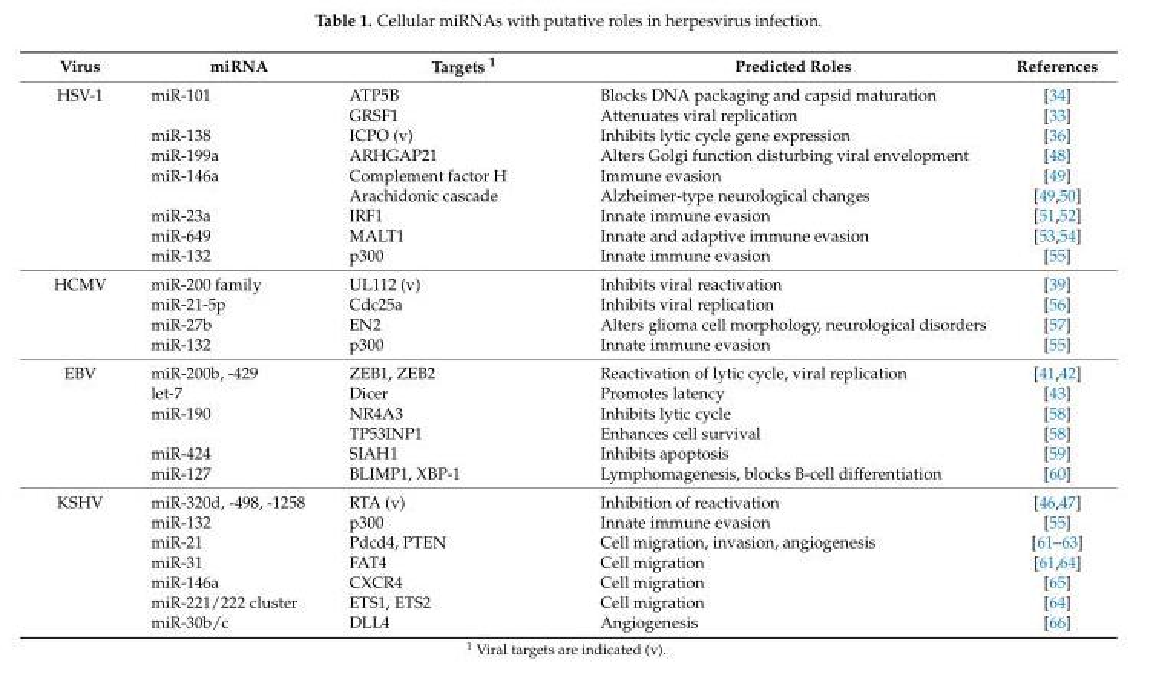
<table><thead><tr><td>Virus</td><td>miRNA</td><td>Targets <sup>1</sup></td><td>Predicted Roles</td><td>References</td></tr></thead><tbody><tr><td rowspan="9">HSV-1</td><td>miR-101</td><td>ATP5B</td><td>Blocks DNA packaging and capsid maturation</td><td>[34]</td></tr><tr><td></td><td>GRSF1</td><td>Attenuates viral replication</td><td>[33]</td></tr><tr><td>miR-138</td><td>ICPO (v)</td><td>Inhibits lytic cycle gene expression</td><td>[36]</td></tr><tr><td>miR-199a</td><td>ARHGAP21</td><td>Alters Golgi function disturbing viral envelopment</td><td>[48]</td></tr><tr><td>miR-146a</td><td>Complement factor H</td><td>Immune evasion</td><td>[49]</td></tr><tr><td></td><td>Arachidonic cascade</td><td>Alzheimer-type neurological changes</td><td>[49,50]</td></tr><tr><td>miR-23a</td><td>IRF1</td><td>Innate immune evasion</td><td>[51,52]</td></tr><tr><td>miR-649</td><td>MALT1</td><td>Innate and adaptive immune evasion</td><td>[53,54]</td></tr><tr><td>miR-132</td><td>p300</td><td>Innate immune evasion</td><td>[55]</td></tr><tr><td rowspan="4">HCMV</td><td>miR-200 family</td><td>UL112 (v)</td><td>Inhibits viral reactivation</td><td>[39]</td></tr><tr><td>miR-21-5p</td><td>Cdc25a</td><td>Inhibits viral replication</td><td>[56]</td></tr><tr><td>miR-27b</td><td>EN2</td><td>Alters glioma cell morphology, neurological disorders</td><td>[57]</td></tr><tr><td>miR-132</td><td>p300</td><td>Innate immune evasion</td><td>[55]</td></tr><tr><td rowspan="6">EBV</td><td>miR-200b, -429</td><td>ZEB1, ZEB2</td><td>Reactivation of lytic cycle, viral replication</td><td>[41,42]</td></tr><tr><td>let-7</td><td>Dicer</td><td>Promotes latency</td><td>[43]</td></tr><tr><td>miR-190</td><td>NR4A3</td><td>Inhibits lytic cycle</td><td>[58]</td></tr><tr><td></td><td>TP53INP1</td><td>Enhances cell survival</td><td>[58]</td></tr><tr><td>miR-424</td><td>SIAH1</td><td>Inhibits apoptosis</td><td>[59]</td></tr><tr><td>miR-127</td><td>BLIMP1, XBP-1</td><td>Lymphomagenesis, blocks B-cell differentiation</td><td>[60]</td></tr><tr><td rowspan="7">KSHV</td><td>miR-320d, -498, -1258</td><td>RTA (v)</td><td>Inhibition of reactivation</td><td>[46,47]</td></tr><tr><td>miR-132</td><td>p300</td><td>Innate immune evasion</td><td>[55]</td></tr><tr><td>miR-21</td><td>Pdcd4, PTEN</td><td>Cell migration, invasion, angiogenesis</td><td>[61–63]</td></tr><tr><td>miR-31</td><td>FAT4</td><td>Cell migration</td><td>[61,64]</td></tr><tr><td>miR-146a</td><td>CXCR4</td><td>Cell migration</td><td>[65]</td></tr><tr><td>miR-221/222 cluster</td><td>ETS1, ETS2</td><td>Cell migration</td><td>[64]</td></tr><tr><td>miR-30b/c</td><td>DLL4</td><td>Angiogenesis</td><td>[66]</td></tr></tbody></table>